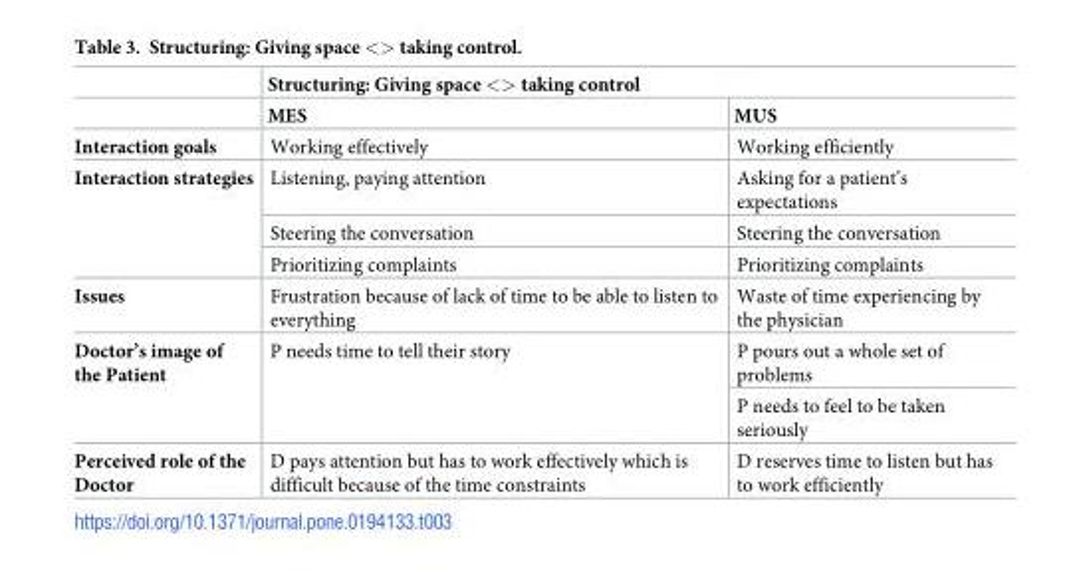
<table><thead><tr><td rowspan="2"></td><td colspan="2">Structuring: Giving space &lt;&gt; taking control</td></tr><tr><td>MES</td><td>MUS</td></tr></thead><tbody><tr><td>Interaction goals</td><td>Working effectively</td><td>Working efficiently</td></tr><tr><td rowspan="3">Interaction strategies</td><td>Listening, paying attention</td><td>Asking for a patient’s expectations</td></tr><tr><td>Steering the conversation</td><td>Steering the conversation</td></tr><tr><td>Prioritizing complaints</td><td>Prioritizing complaints</td></tr><tr><td>Issues</td><td>Frustration because of lack of time to be able to listen to everything</td><td>Waste of time experiencing by the physician</td></tr><tr><td rowspan="2">Doctor’s image of the Patient</td><td rowspan="2">P needs time to tell their story</td><td>P pours out a whole set of problems</td></tr><tr><td>P needs to feel to be taken seriously</td></tr><tr><td>Perceived role of the Doctor</td><td>D pays attention but has to work effectively which is difficult because of the time constraints</td><td>D reserves time to listen but has to work efficiently</td></tr></tbody></table>